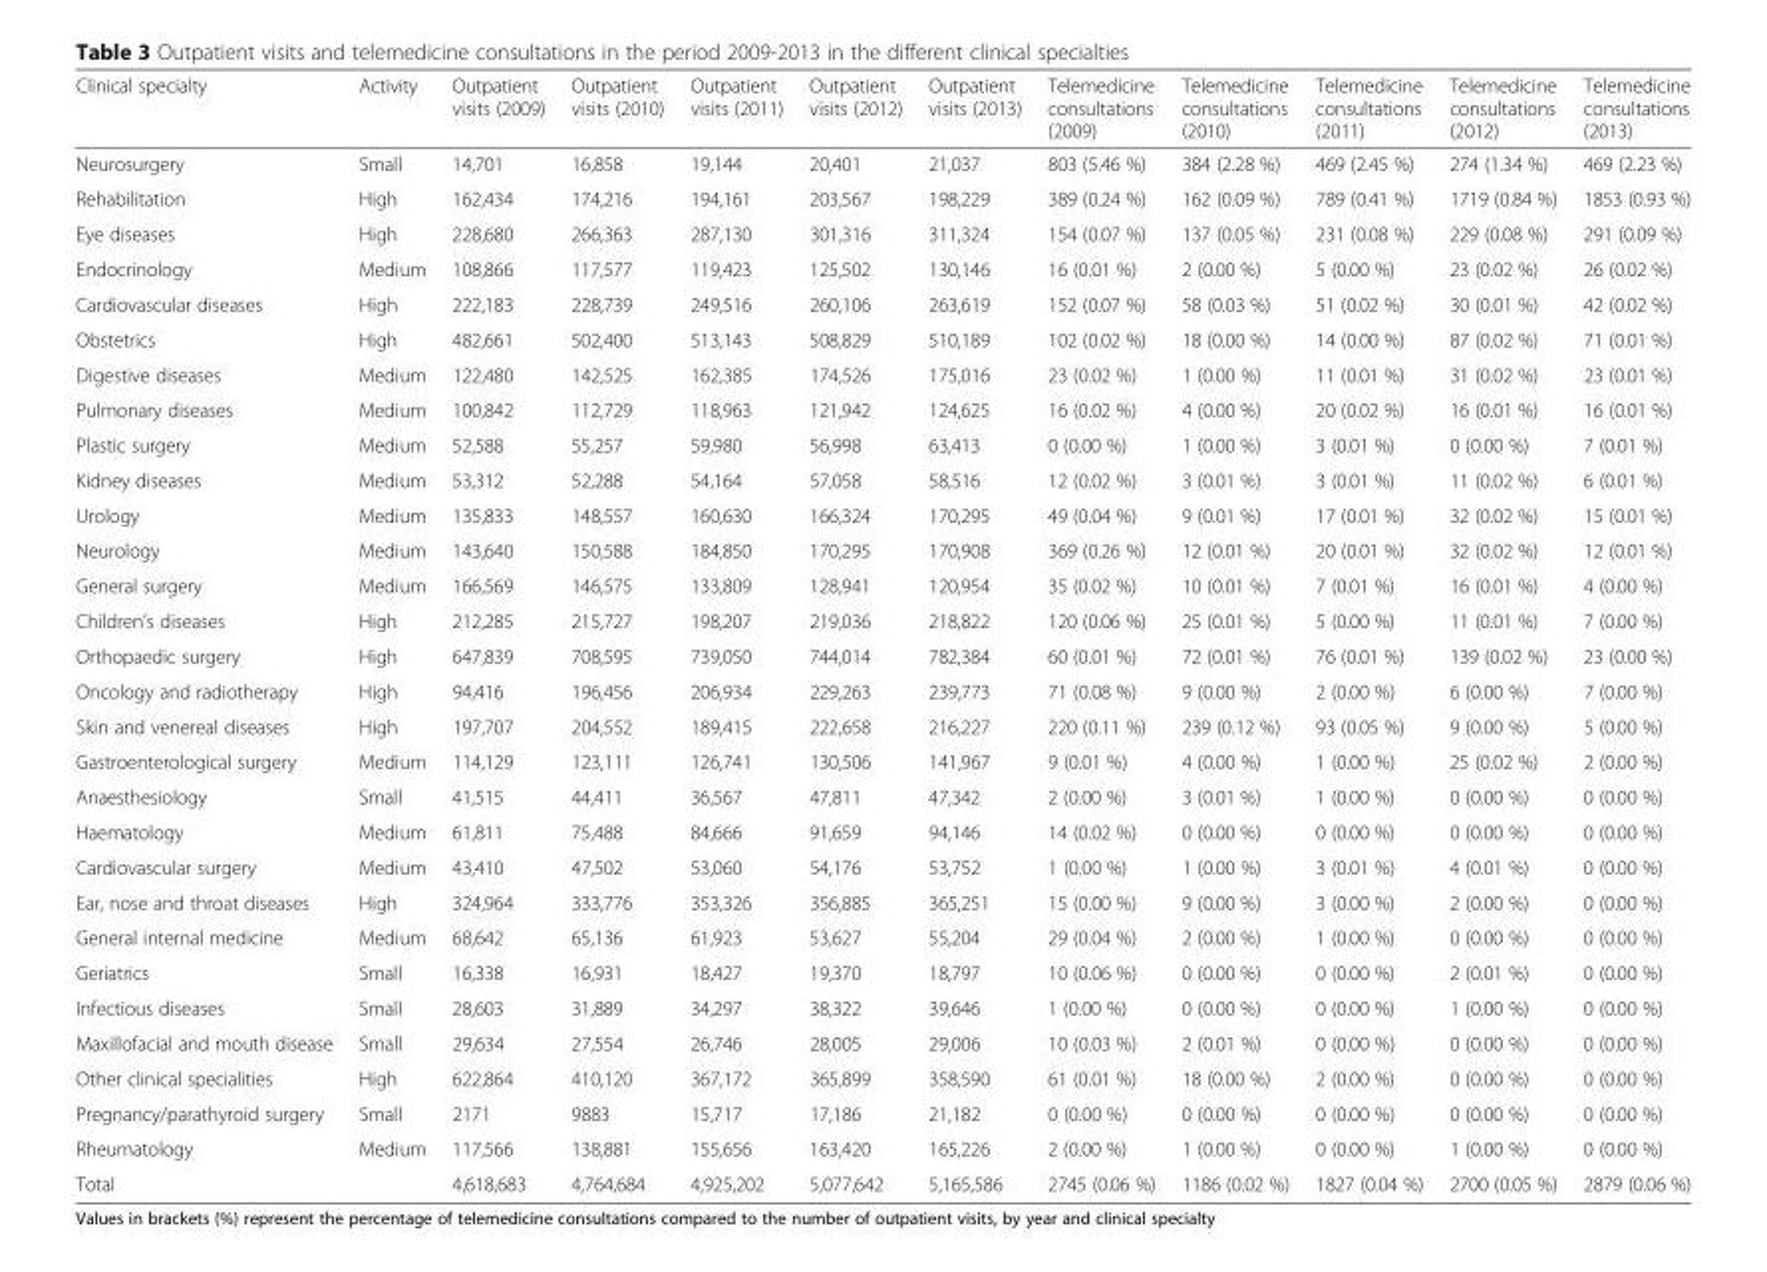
<table><thead><tr><td>Clinical specialty</td><td>Activity</td><td>Outpatient visits (2009)</td><td>Outpatient visits (2010)</td><td>Outpatient visits (2011)</td><td>Outpatient visits (2012)</td><td>Outpatient visits (2013)</td><td>Telemedicine consultations (2009)</td><td>Telemedicine consultations (2010)</td><td>Telemedicine consultations (2011)</td><td>Telemedicine consultations (2012)</td><td>Telemedicine consultations (2013)</td></tr></thead><tbody><tr><td>Neurosurgery</td><td>Small</td><td>14,701</td><td>16,858</td><td>19,144</td><td>20,401</td><td>21,037</td><td>803 (5.46 %)</td><td>384 (2.28 %)</td><td>469 (2.45 %)</td><td>274 (1.34 %)</td><td>469 (2.23 %)</td></tr><tr><td>Rehabilitation</td><td>High</td><td>162,434</td><td>174,216</td><td>194,161</td><td>203,567</td><td>198,229</td><td>389 (0.24 %)</td><td>162 (0.09 %)</td><td>789 (0.41 %)</td><td>1719 (0.84 %)</td><td>1853 (0.93 %)</td></tr><tr><td>Eye diseases</td><td>High</td><td>228,680</td><td>266,363</td><td>287,130</td><td>301,316</td><td>311,324</td><td>154 (0.07 %)</td><td>137 (0.05 %)</td><td>231 (0.08 %)</td><td>229 (0.08 %)</td><td>291 (0.09 %)</td></tr><tr><td>Endocrinology</td><td>Medium</td><td>108,866</td><td>117,577</td><td>119,423</td><td>125,502</td><td>130,146</td><td>16 (0.01 %)</td><td>2 (0.00 %)</td><td>5 (0.00 %)</td><td>23 (0.02 %)</td><td>26 (0.02 %)</td></tr><tr><td>Cardiovascular diseases</td><td>High</td><td>222,183</td><td>228,739</td><td>249,516</td><td>260,106</td><td>263,619</td><td>152 (0.07 %)</td><td>58 (0.03 %)</td><td>51 (0.02 %)</td><td>30 (0.01 %)</td><td>42 (0.02 %)</td></tr><tr><td>Obstetrics</td><td>High</td><td>482,661</td><td>502,400</td><td>513,143</td><td>508,829</td><td>510,189</td><td>102 (0.02 %)</td><td>18 (0.00 %)</td><td>14 (0.00 %)</td><td>87 (0.02 %)</td><td>71 (0.01 %)</td></tr><tr><td>Digestive diseases</td><td>Medium</td><td>122,480</td><td>142,525</td><td>162,385</td><td>174,526</td><td>175,016</td><td>23 (0.02 %)</td><td>1 (0.00 %)</td><td>11 (0.01 %)</td><td>31 (0.02 %)</td><td>23 (0.01 %)</td></tr><tr><td>Pulmonary diseases</td><td>Medium</td><td>100,842</td><td>112,729</td><td>118,963</td><td>121,942</td><td>124,625</td><td>16 (0.02 %)</td><td>4 (0.00 %)</td><td>20 (0.02 %)</td><td>16 (0.01 %)</td><td>16 (0.01 %)</td></tr><tr><td>Plastic surgery</td><td>Medium</td><td>52,588</td><td>55,257</td><td>59,980</td><td>56,998</td><td>63,413</td><td>0 (0.00 %)</td><td>1 (0.00 %)</td><td>3 (0.01 %)</td><td>0 (0.00 %)</td><td>7 (0.01 %)</td></tr><tr><td>Kidney diseases</td><td>Medium</td><td>53,312</td><td>52,288</td><td>54,164</td><td>57,058</td><td>58,516</td><td>12 (0.02 %)</td><td>3 (0.01 %)</td><td>3 (0.01 %)</td><td>11 (0.02 %)</td><td>6 (0.01 %)</td></tr><tr><td>Urology</td><td>Medium</td><td>135,833</td><td>148,557</td><td>160,630</td><td>166,324</td><td>170,295</td><td>49 (0.04 %)</td><td>9 (0.01 %)</td><td>17 (0.01 %)</td><td>32 (0.02 %)</td><td>15 (0.01 %)</td></tr><tr><td>Neurology</td><td>Medium</td><td>143,640</td><td>150,588</td><td>184,850</td><td>170,295</td><td>170,908</td><td>369 (0.26 %)</td><td>12 (0.01 %)</td><td>20 (0.01 %)</td><td>32 (0.02 %)</td><td>12 (0.01 %)</td></tr><tr><td>General surgery</td><td>Medium</td><td>166,569</td><td>146,575</td><td>133,809</td><td>128,941</td><td>120,954</td><td>35 (0.02 %)</td><td>10 (0.01 %)</td><td>7 (0.01 %)</td><td>16 (0.01 %)</td><td>4 (0.00 %)</td></tr><tr><td>Children’s diseases</td><td>High</td><td>212,285</td><td>215,727</td><td>198,207</td><td>219,036</td><td>218,822</td><td>120 (0.06 %)</td><td>25 (0.01 %)</td><td>5 (0.00 %)</td><td>11 (0.01 %)</td><td>7 (0.00 %)</td></tr><tr><td>Orthopaedic surgery</td><td>High</td><td>647,839</td><td>708,595</td><td>739,050</td><td>744,014</td><td>782,384</td><td>60 (0.01 %)</td><td>72 (0.01 %)</td><td>76 (0.01 %)</td><td>139 (0.02 %)</td><td>23 (0.00 %)</td></tr><tr><td>Oncology and radiotherapy</td><td>High</td><td>94,416</td><td>196,456</td><td>206,934</td><td>229,263</td><td>239,773</td><td>71 (0.08 %)</td><td>9 (0.00 %)</td><td>2 (0.00 %)</td><td>6 (0.00 %)</td><td>7 (0.00 %)</td></tr><tr><td>Skin and venereal diseases</td><td>High</td><td>197,707</td><td>204,552</td><td>189,415</td><td>222,658</td><td>216,227</td><td>220 (0.11 %)</td><td>239 (0.12 %)</td><td>93 (0.05 %)</td><td>9 (0.00 %)</td><td>5 (0.00 %)</td></tr><tr><td>Gastroenterological surgery</td><td>Medium</td><td>114,129</td><td>123,111</td><td>126,741</td><td>130,506</td><td>141,967</td><td>9 (0.01 %)</td><td>4 (0.00 %)</td><td>1 (0.00 %)</td><td>25 (0.02 %)</td><td>2 (0.00 %)</td></tr><tr><td>Anaesthesiology</td><td>Small</td><td>41,515</td><td>44,411</td><td>36,567</td><td>47,811</td><td>47,342</td><td>2 (0.00 %)</td><td>3 (0.01 %)</td><td>1 (0.00 %)</td><td>0 (0.00 %)</td><td>0 (0.00 %)</td></tr><tr><td>Haematology</td><td>Medium</td><td>61,811</td><td>75,488</td><td>84,666</td><td>91,659</td><td>94,146</td><td>14 (0.02 %)</td><td>0 (0.00 %)</td><td>0 (0.00 %)</td><td>0 (0.00 %)</td><td>0 (0.00 %)</td></tr><tr><td>Cardiovascular surgery</td><td>Medium</td><td>43,410</td><td>47,502</td><td>53,060</td><td>54,176</td><td>53,752</td><td>1 (0.00 %)</td><td>1 (0.00 %)</td><td>3 (0.01 %)</td><td>4 (0.01 %)</td><td>0 (0.00 %)</td></tr><tr><td>Ear, nose and throat diseases</td><td>High</td><td>324,964</td><td>333,776</td><td>353,326</td><td>356,885</td><td>365,251</td><td>15 (0.00 %)</td><td>9 (0.00 %)</td><td>3 (0.00 %)</td><td>2 (0.00 %)</td><td>0 (0.00 %)</td></tr><tr><td>General internal medicine</td><td>Medium</td><td>68,642</td><td>65,136</td><td>61,923</td><td>53,627</td><td>55,204</td><td>29 (0.04 %)</td><td>2 (0.00 %)</td><td>1 (0.00 %)</td><td>0 (0.00 %)</td><td>0 (0.00 %)</td></tr><tr><td>Geriatrics</td><td>Small</td><td>16,338</td><td>16,931</td><td>18,427</td><td>19,370</td><td>18,797</td><td>10 (0.06 %)</td><td>0 (0.00 %)</td><td>0 (0.00 %)</td><td>2 (0.01 %)</td><td>0 (0.00 %)</td></tr><tr><td>Infectious diseases</td><td>Small</td><td>28,603</td><td>31,889</td><td>34,297</td><td>38,322</td><td>39,646</td><td>1 (0.00 %)</td><td>0 (0.00 %)</td><td>0 (0.00 %)</td><td>1 (0.00 %)</td><td>0 (0.00 %)</td></tr><tr><td>Maxillofacial and mouth disease</td><td>Small</td><td>29,634</td><td>27,554</td><td>26,746</td><td>28,005</td><td>29,006</td><td>10 (0.03 %)</td><td>2 (0.01 %)</td><td>0 (0.00 %)</td><td>0 (0.00 %)</td><td>0 (0.00 %)</td></tr><tr><td>Other clinical specialities</td><td>High</td><td>622,864</td><td>410,120</td><td>367,172</td><td>365,899</td><td>358,590</td><td>61 (0.01 %)</td><td>18 (0.00 %)</td><td>2 (0.00 %)</td><td>0 (0.00 %)</td><td>0 (0.00 %)</td></tr><tr><td>Pregnancy/parathyroid surgery</td><td>Small</td><td>2171</td><td>9883</td><td>15,717</td><td>17,186</td><td>21,182</td><td>0 (0.00 %)</td><td>0 (0.00 %)</td><td>0 (0.00 %)</td><td>0 (0.00 %)</td><td>0 (0.00 %)</td></tr><tr><td>Rheumatology</td><td>Medium</td><td>117,566</td><td>138,881</td><td>155,656</td><td>163,420</td><td>165,226</td><td>2 (0.00 %)</td><td>1 (0.00 %)</td><td>0 (0.00 %)</td><td>1 (0.00 %)</td><td>0 (0.00 %)</td></tr><tr><td>Total</td><td></td><td>4,618,683</td><td>4,764,684</td><td>4,925,202</td><td>5,077,642</td><td>5,165,586</td><td>2745 (0.06 %)</td><td>1186 (0.02 %)</td><td>1827 (0.04 %)</td><td>2700 (0.05 %)</td><td>2879 (0.06 %)</td></tr></tbody></table>